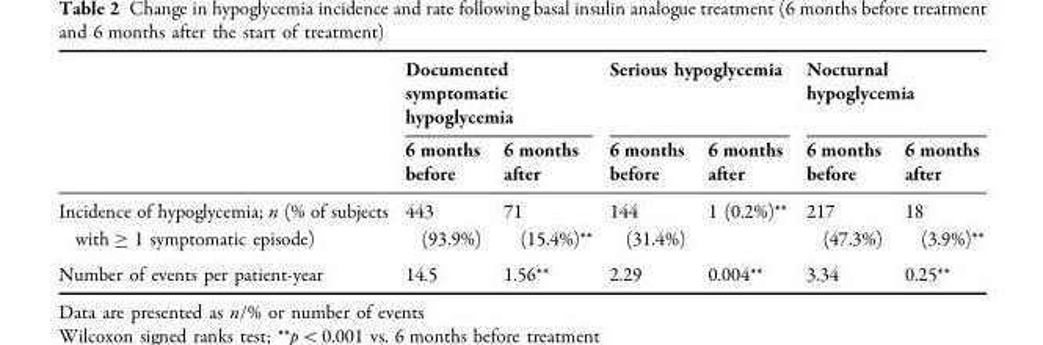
<table><thead><tr><td rowspan="2"></td><td colspan="2">Documented symptomatic hypoglycemia</td><td colspan="2">Serious hypoglycemia</td><td colspan="2">Nocturnal hypoglycemia</td></tr><tr><td>6 months before</td><td>6 months after</td><td>6 months before</td><td>6 months after</td><td>6 months before</td><td>6 months after</td></tr></thead><tbody><tr><td>Incidence of hypoglycemia; n (% of subjects with ≥ 1 symptomatic episode)</td><td>443 (93.9%)</td><td>71 (15.4%)**</td><td>144 (31.4%)</td><td>1 (0.2%)**</td><td>217 (47.3%)</td><td>18 (3.9%)**</td></tr><tr><td>Number of events per patient-year</td><td>14.5</td><td>1.56**</td><td>2.29</td><td>0.004**</td><td>3.34</td><td>0.25**</td></tr></tbody></table>